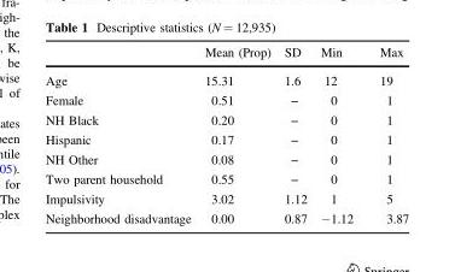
<table><thead><tr><td></td><td>Mean (Prop)</td><td>SD</td><td>Min</td><td>Max</td></tr></thead><tbody><tr><td>Age</td><td>15.31</td><td>1.6</td><td>12</td><td>19</td></tr><tr><td>Female</td><td>0.51</td><td>–</td><td>0</td><td>1</td></tr><tr><td>NH Black</td><td>0.20</td><td>–</td><td>0</td><td>1</td></tr><tr><td>Hispanic</td><td>0.17</td><td>–</td><td>0</td><td>1</td></tr><tr><td>NH Other</td><td>0.08</td><td>–</td><td>0</td><td>1</td></tr><tr><td>Two parent household</td><td>0.55</td><td>–</td><td>0</td><td>1</td></tr><tr><td>Impulsivity</td><td>3.02</td><td>1.12</td><td>1</td><td>5</td></tr><tr><td>Neighborhood disadvantage</td><td>0.00</td><td>0.87</td><td>−1.12</td><td>3.87</td></tr></tbody></table>